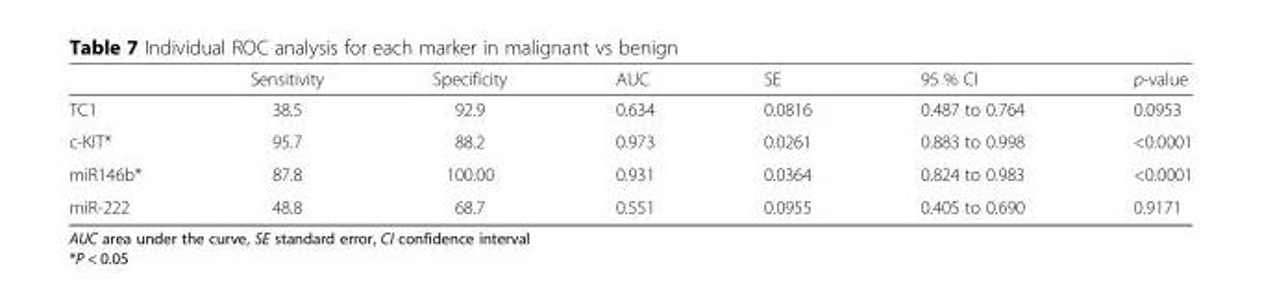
<table><thead><tr><td></td><td>Sensitivity</td><td>Specificity</td><td>AUC</td><td>SE</td><td>95 % CI</td><td>p-value</td></tr></thead><tbody><tr><td>TC1</td><td>38.5</td><td>92.9</td><td>0.634</td><td>0.0816</td><td>0.487 to 0.764</td><td>0.0953</td></tr><tr><td>c-KIT*</td><td>95.7</td><td>88.2</td><td>0.973</td><td>0.0261</td><td>0.883 to 0.998</td><td>&lt;0.0001</td></tr><tr><td>miR146b*</td><td>87.8</td><td>100.00</td><td>0.931</td><td>0.0364</td><td>0.824 to 0.983</td><td>&lt;0.0001</td></tr><tr><td>miR-222</td><td>48.8</td><td>68.7</td><td>0.551</td><td>0.0955</td><td>0.405 to 0.690</td><td>0.9171</td></tr></tbody></table>